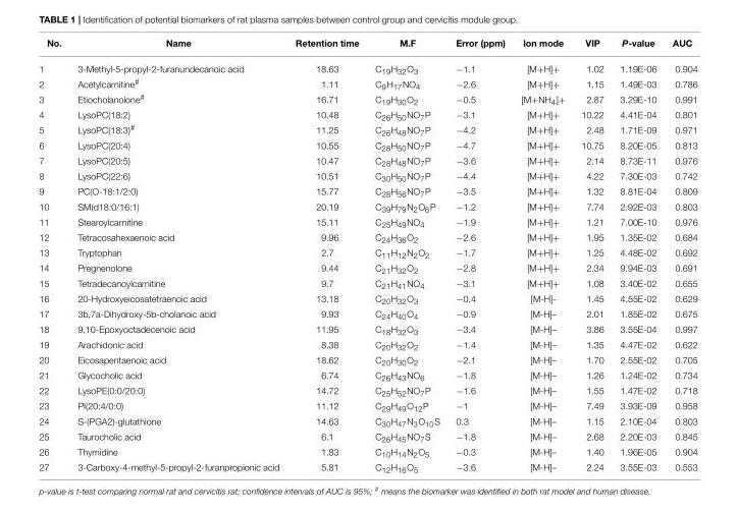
<table><thead><tr><td>No.</td><td>Name</td><td>Retention time</td><td>M.F</td><td>Error (ppm)</td><td>Ion mode</td><td>VIP</td><td>P-value</td><td>AUC</td></tr></thead><tbody><tr><td>1</td><td>3-Methyl-5-propyl-2-furanundecanoic acid</td><td>18.63</td><td>C<sub>19</sub>H<sub>32</sub>O<sub>3</sub></td><td>−1.1</td><td>[M+H]+</td><td>1.02</td><td>1.19E-06</td><td>0.904</td></tr><tr><td>2</td><td>Acetylcarnitine<sup>#</sup></td><td>1.11</td><td>C<sub>9</sub>H<sub>17</sub>NO<sub>4</sub></td><td>−2.6</td><td>[M+H]+</td><td>1.15</td><td>1.49E-03</td><td>0.786</td></tr><tr><td>3</td><td>Etiocholanolone<sup>#</sup></td><td>16.71</td><td>C<sub>19</sub>H<sub>30</sub>O<sub>2</sub></td><td>−0.5</td><td>[M+NH<sub>4</sub>]+</td><td>2.87</td><td>3.29E-10</td><td>0.991</td></tr><tr><td>4</td><td>LysoPC(18:2)</td><td>10.48</td><td>C<sub>26</sub>H<sub>50</sub>NO<sub>7</sub>P</td><td>−3.1</td><td>[M+H]+</td><td>10.22</td><td>4.41E-04</td><td>0.801</td></tr><tr><td>5</td><td>LysoPC(18:3)<sup>#</sup></td><td>11.25</td><td>C<sub>26</sub>H<sub>48</sub>NO<sub>7</sub>P</td><td>−4.2</td><td>[M+H]+</td><td>2.48</td><td>1.71E-09</td><td>0.971</td></tr><tr><td>6</td><td>LysoPC(20:4)</td><td>10.55</td><td>C<sub>28</sub>H<sub>50</sub>NO<sub>7</sub>P</td><td>−4.7</td><td>[M+H]+</td><td>10.75</td><td>8.20E-05</td><td>0.813</td></tr><tr><td>7</td><td>LysoPC(20:5)</td><td>10.47</td><td>C<sub>28</sub>H<sub>48</sub>NO<sub>7</sub>P</td><td>−3.6</td><td>[M+H]+</td><td>2.14</td><td>8.73E-11</td><td>0.976</td></tr><tr><td>8</td><td>LysoPC(22:6)</td><td>10.51</td><td>C<sub>30</sub>H<sub>50</sub>NO<sub>7</sub>P</td><td>−4.4</td><td>[M+H]+</td><td>4.22</td><td>7.30E-03</td><td>0.742</td></tr><tr><td>9</td><td>PC(O-18:1/2:0)</td><td>15.77</td><td>C<sub>28</sub>H<sub>56</sub>NO<sub>7</sub>P</td><td>−3.5</td><td>[M+H]+</td><td>1.32</td><td>8.81E-04</td><td>0.809</td></tr><tr><td>10</td><td>SM(d18:0/16:1)</td><td>20.19</td><td>C<sub>39</sub>H<sub>79</sub>N<sub>2</sub>O<sub>6</sub>P</td><td>−1.2</td><td>[M+H]+</td><td>7.74</td><td>2.92E-03</td><td>0.803</td></tr><tr><td>11</td><td>Stearoylcarnitine</td><td>15.11</td><td>C<sub>25</sub>H<sub>49</sub>NO<sub>4</sub></td><td>−1.9</td><td>[M+H]+</td><td>1.21</td><td>7.00E-10</td><td>0.976</td></tr><tr><td>12</td><td>Tetracosahexaenoic acid</td><td>9.96</td><td>C<sub>24</sub>H<sub>36</sub>O<sub>2</sub></td><td>−2.6</td><td>[M+H]+</td><td>1.95</td><td>1.35E-02</td><td>0.684</td></tr><tr><td>13</td><td>Tryptophan</td><td>2.7</td><td>C<sub>11</sub>H<sub>12</sub>N<sub>2</sub>O<sub>2</sub></td><td>−1.7</td><td>[M+H]+</td><td>1.25</td><td>4.48E-02</td><td>0.692</td></tr><tr><td>14</td><td>Pregnenolone</td><td>9.44</td><td>C<sub>21</sub>H<sub>32</sub>O<sub>2</sub></td><td>−2.8</td><td>[M+H]+</td><td>2.34</td><td>9.94E-03</td><td>0.691</td></tr><tr><td>15</td><td>Tetradecanoylcarnitine</td><td>9.7</td><td>C<sub>21</sub>H<sub>41</sub>NO<sub>4</sub></td><td>−3.1</td><td>[M+H]+</td><td>1.08</td><td>3.40E-02</td><td>0.655</td></tr><tr><td>16</td><td>20-Hydroxyeicosatetraenoic acid</td><td>13.18</td><td>C<sub>20</sub>H<sub>32</sub>O<sub>3</sub></td><td>−0.4</td><td>[M-H]-</td><td>1.45</td><td>4.55E-02</td><td>0.629</td></tr><tr><td>17</td><td>3b,7a-Dihydroxy-5b-cholanoic acid</td><td>9.93</td><td>C<sub>24</sub>H<sub>40</sub>O<sub>4</sub></td><td>−0.9</td><td>[M-H]–</td><td>2.01</td><td>1.85E-02</td><td>0.675</td></tr><tr><td>18</td><td>9,10-Epoxyoctadecenoic acid</td><td>11.95</td><td>C<sub>18</sub>H<sub>32</sub>O<sub>3</sub></td><td>−3.4</td><td>[M-H]–</td><td>3.86</td><td>3.55E-04</td><td>0.997</td></tr><tr><td>19</td><td>Arachidonic acid</td><td>8.38</td><td>C<sub>20</sub>H<sub>32</sub>O<sub>2</sub></td><td>−1.4</td><td>[M-H]–</td><td>1.35</td><td>4.47E-02</td><td>0.622</td></tr><tr><td>20</td><td>Eicosapentaenoic acid</td><td>18.62</td><td>C<sub>20</sub>H<sub>30</sub>O<sub>2</sub></td><td>−2.1</td><td>[M-H]–</td><td>1.70</td><td>2.55E-02</td><td>0.705</td></tr><tr><td>21</td><td>Glycocholic acid</td><td>6.74</td><td>C<sub>26</sub>H<sub>43</sub>NO<sub>6</sub></td><td>−1.8</td><td>[M-H]–</td><td>1.26</td><td>1.24E-02</td><td>0.734</td></tr><tr><td>22</td><td>LysoPE(0:0/20:0)</td><td>14.72</td><td>C<sub>25</sub>H<sub>52</sub>NO<sub>7</sub>P</td><td>−1.6</td><td>[M-H]–</td><td>1.55</td><td>1.47E-02</td><td>0.718</td></tr><tr><td>23</td><td>PI(20:4/0:0)</td><td>11.12</td><td>C<sub>29</sub>H<sub>49</sub>O<sub>12</sub>P</td><td>−1</td><td>[M-H]–</td><td>7.49</td><td>3.93E-09</td><td>0.958</td></tr><tr><td>24</td><td>S-(PGA2)-glutathione</td><td>14.63</td><td>C<sub>30</sub>H<sub>47</sub>N<sub>3</sub>O<sub>10</sub>S</td><td>0.3</td><td>[M-H]–</td><td>1.15</td><td>2.10E-04</td><td>0.803</td></tr><tr><td>25</td><td>Taurocholic acid</td><td>6.1</td><td>C<sub>26</sub>H<sub>45</sub>NO<sub>7</sub>S</td><td>−1.8</td><td>[M-H]–</td><td>2.68</td><td>2.20E-03</td><td>0.845</td></tr><tr><td>26</td><td>Thymidine</td><td>1.83</td><td>C<sub>10</sub>H<sub>14</sub>N<sub>2</sub>O<sub>5</sub></td><td>−0.3</td><td>[M-H]–</td><td>1.40</td><td>1.96E-05</td><td>0.904</td></tr><tr><td>27</td><td>3-Carboxy-4-methyl-5-propyl-2-furanpropionic acid</td><td>5.81</td><td>C<sub>12</sub>H<sub>16</sub>O<sub>5</sub></td><td>−3.6</td><td>[M-H]–</td><td>2.24</td><td>3.55E-03</td><td>0.553</td></tr></tbody></table>